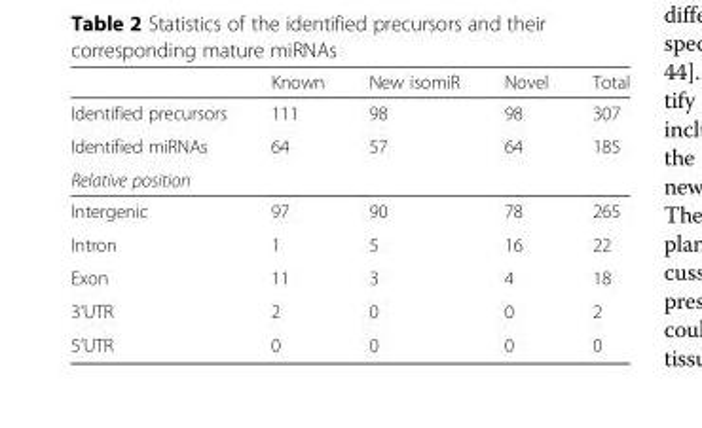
<table><thead><tr><td></td><td>Known</td><td>New isomiR</td><td>Novel</td><td>Total</td></tr></thead><tbody><tr><td>Identified precursors</td><td>111</td><td>98</td><td>98</td><td>307</td></tr><tr><td>Identified miRNAs</td><td>64</td><td>57</td><td>64</td><td>185</td></tr><tr><td colspan="5">Relative position</td></tr><tr><td>Intergenic</td><td>97</td><td>90</td><td>78</td><td>265</td></tr><tr><td>Intron</td><td>1</td><td>5</td><td>16</td><td>22</td></tr><tr><td>Exon</td><td>11</td><td>3</td><td>4</td><td>18</td></tr><tr><td>3’UTR</td><td>2</td><td>0</td><td>0</td><td>2</td></tr><tr><td>5’UTR</td><td>0</td><td>0</td><td>0</td><td>0</td></tr></tbody></table>